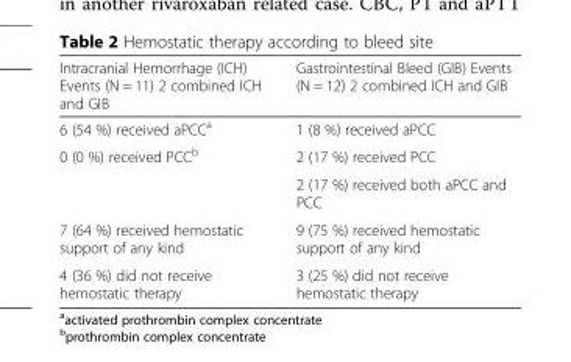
<table><thead><tr><td>Intracranial Hemorrhage (ICH) Events (N = 11) 2 combined ICH and GIB</td><td>Gastrointestinal Bleed (GIB) Events (N = 12) 2 combined ICH and GIB</td></tr></thead><tbody><tr><td>6 (54 %) received aPCC<sup>a</sup></td><td>1 (8 %) received aPCC</td></tr><tr><td rowspan="2">0 (0 %) received PCC<sup>b</sup></td><td>2 (17 %) received PCC</td></tr><tr><td>2 (17 %) received both aPCC and PCC</td></tr><tr><td>7 (64 %) received hemostatic support of any kind</td><td>9 (75 %) received hemostatic support of any kind</td></tr><tr><td>4 (36 %) did not receive hemostatic therapy</td><td>3 (25 %) did not receive hemostatic therapy</td></tr></tbody></table>